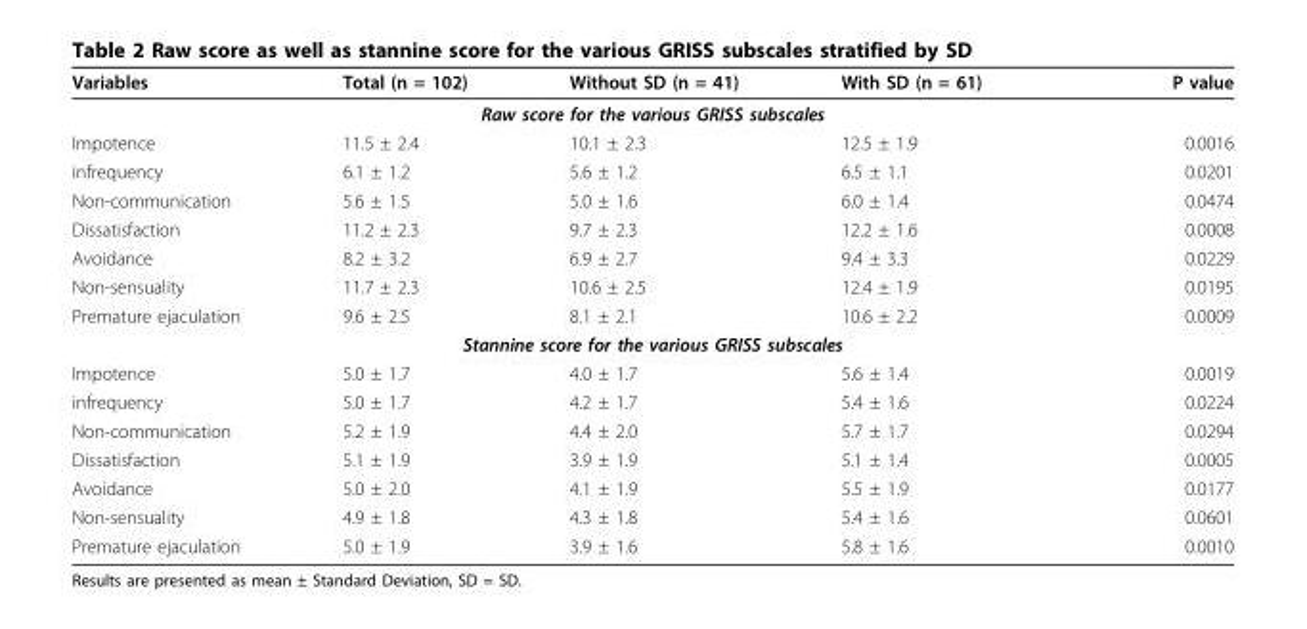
<table><thead><tr><td>Variables</td><td>Total (n = 102)</td><td>Without SD (n = 41)</td><td>With SD (n = 61)</td><td>P value</td></tr></thead><tbody><tr><td colspan="5">Raw score for the various GRISS subscales</td></tr><tr><td>Impotence</td><td>11.5 ± 2.4</td><td>10.1 ± 2.3</td><td>12.5 ± 1.9</td><td>0.0016</td></tr><tr><td>infrequency</td><td>6.1 ± 1.2</td><td>5.6 ± 1.2</td><td>6.5 ± 1.1</td><td>0.0201</td></tr><tr><td>Non-communication</td><td>5.6 ± 1.5</td><td>5.0 ± 1.6</td><td>6.0 ± 1.4</td><td>0.0474</td></tr><tr><td>Dissatisfaction</td><td>11.2 ± 2.3</td><td>9.7 ± 2.3</td><td>12.2 ± 1.6</td><td>0.0008</td></tr><tr><td>Avoidance</td><td>8.2 ± 3.2</td><td>6.9 ± 2.7</td><td>9.4 ± 3.3</td><td>0.0229</td></tr><tr><td>Non-sensuality</td><td>11.7 ± 2.3</td><td>10.6 ± 2.5</td><td>12.4 ± 1.9</td><td>0.0195</td></tr><tr><td>Premature ejaculation</td><td>9.6 ± 2.5</td><td>8.1 ± 2.1</td><td>10.6 ± 2.2</td><td>0.0009</td></tr><tr><td colspan="5">Stannine score for the various GRISS subscales</td></tr><tr><td>Impotence</td><td>5.0 ± 1.7</td><td>4.0 ± 1.7</td><td>5.6 ± 1.4</td><td>0.0019</td></tr><tr><td>infrequency</td><td>5.0 ± 1.7</td><td>4.2 ± 1.7</td><td>5.4 ± 1.6</td><td>0.0224</td></tr><tr><td>Non-communication</td><td>5.2 ± 1.9</td><td>4.4 ± 2.0</td><td>5.7 ± 1.7</td><td>0.0294</td></tr><tr><td>Dissatisfaction</td><td>5.1 ± 1.9</td><td>3.9 ± 1.9</td><td>5.1 ± 1.4</td><td>0.0005</td></tr><tr><td>Avoidance</td><td>5.0 ± 2.0</td><td>4.1 ± 1.9</td><td>5.5 ± 1.9</td><td>0.0177</td></tr><tr><td>Non-sensuality</td><td>4.9 ± 1.8</td><td>4.3 ± 1.8</td><td>5.4 ± 1.6</td><td>0.0601</td></tr><tr><td>Premature ejaculation</td><td>5.0 ± 1.9</td><td>3.9 ± 1.6</td><td>5.8 ± 1.6</td><td>0.0010</td></tr></tbody></table>